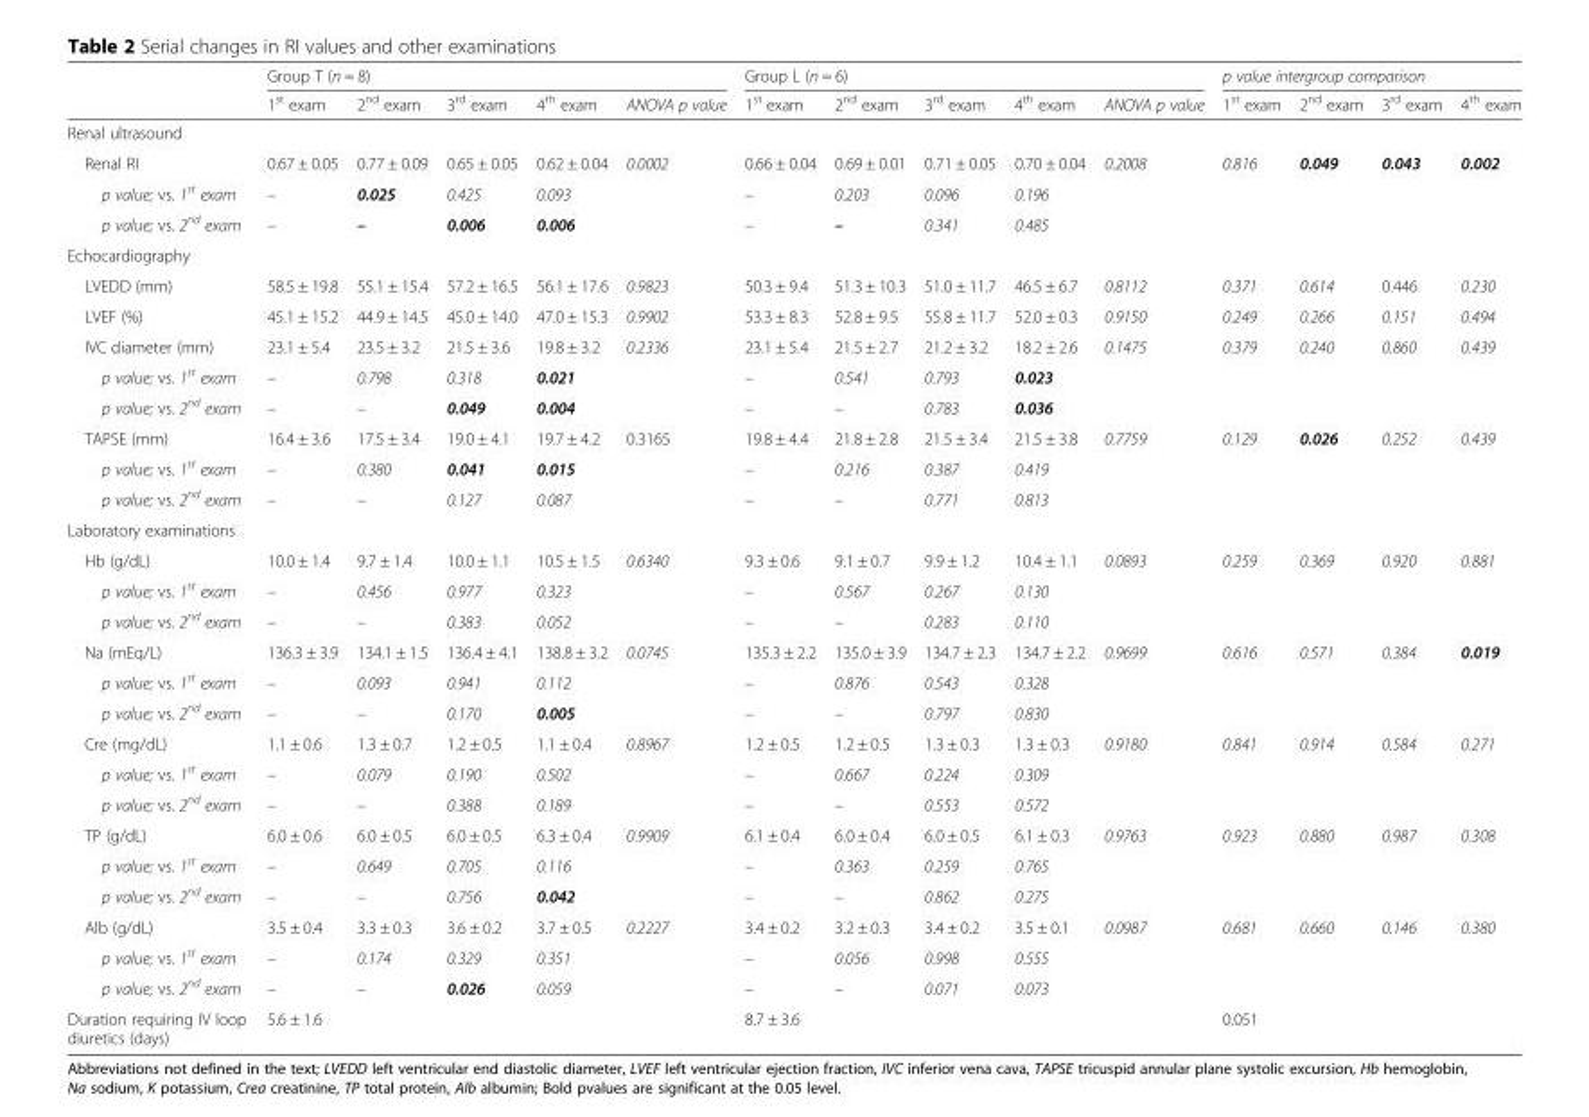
<table><thead><tr><td rowspan="2"></td><td colspan="5">Group T (n = 8)</td><td colspan="5">Group L (n = 6)</td><td colspan="4">p value intergroup comparison</td></tr><tr><td>1<sup>st</sup> exam</td><td>2<sup>nd</sup> exam</td><td>3<sup>rd</sup> exam</td><td>4<sup>th</sup> exam</td><td>ANOVA p value</td><td>1<sup>st</sup> exam</td><td>2<sup>nd</sup> exam</td><td>3<sup>rd</sup> exam</td><td>4<sup>th</sup> exam</td><td>ANOVA p value</td><td>1<sup>st</sup> exam</td><td>2<sup>nd</sup> exam</td><td>3<sup>rd</sup> exam</td><td>4<sup>th</sup> exam</td></tr></thead><tbody><tr><td colspan="15">Renal ultrasound</td></tr><tr><td>Renal RI</td><td>0.67 ± 0.05</td><td>0.77 ± 0.09</td><td>0.65 ± 0.05</td><td>0.62 ± 0.04</td><td>0.0002</td><td>0.66 ± 0.04</td><td>0.69 ± 0.01</td><td>0.71 ± 0.05</td><td>0.70 ± 0.04</td><td>0.2008</td><td>0.816</td><td>0.049</td><td>0.043</td><td>0.002</td></tr><tr><td>p value; vs. 1<sup>st</sup> exam</td><td>–</td><td>0.025</td><td>0.425</td><td>0.093</td><td></td><td>–</td><td>0.203</td><td>0.096</td><td>0.196</td><td></td><td></td><td></td><td></td><td></td></tr><tr><td>p value; vs. 2<sup>nd</sup> exam</td><td>–</td><td>–</td><td>0.006</td><td>0.006</td><td></td><td>–</td><td>–</td><td>0.341</td><td>0.485</td><td></td><td></td><td></td><td></td><td></td></tr><tr><td colspan="15">Echocardiography</td></tr><tr><td>LVEDD (mm)</td><td>58.5 ± 19.8</td><td>55.1 ± 15.4</td><td>57.2 ± 16.5</td><td>56.1 ± 17.6</td><td>0.9823</td><td>50.3 ± 9.4</td><td>51.3 ± 10.3</td><td>51.0 ± 11.7</td><td>46.5 ± 6.7</td><td>0.8112</td><td>0.371</td><td>0.614</td><td>0.446</td><td>0.230</td></tr><tr><td>LVEF (%)</td><td>45.1 ± 15.2</td><td>44.9 ± 14.5</td><td>45.0 ± 14.0</td><td>47.0 ± 15.3</td><td>0.9902</td><td>53.3 ± 8.3</td><td>52.8 ± 9.5</td><td>55.8 ± 11.7</td><td>52.0 ± 0.3</td><td>0.9150</td><td>0.249</td><td>0.266</td><td>0.151</td><td>0.494</td></tr><tr><td>IVC diameter (mm)</td><td>23.1 ± 5.4</td><td>23.5 ± 3.2</td><td>21.5 ± 3.6</td><td>19.8 ± 3.2</td><td>0.2336</td><td>23.1 ± 5.4</td><td>21.5 ± 2.7</td><td>21.2 ± 3.2</td><td>18.2 ± 2.6</td><td>0.1475</td><td>0.379</td><td>0.240</td><td>0.860</td><td>0.439</td></tr><tr><td>p value; vs. 1<sup>st</sup> exam</td><td>–</td><td>0.798</td><td>0.318</td><td>0.021</td><td></td><td>–</td><td>0.541</td><td>0.793</td><td>0.023</td><td></td><td></td><td></td><td></td><td></td></tr><tr><td>p value; vs. 2<sup>nd</sup> exam</td><td>–</td><td>–</td><td>0.049</td><td>0.004</td><td></td><td>–</td><td>–</td><td>0.783</td><td>0.036</td><td></td><td></td><td></td><td></td><td></td></tr><tr><td>TAPSE (mm)</td><td>16.4 ± 3.6</td><td>17.5 ± 3.4</td><td>19.0 ± 4.1</td><td>19.7 ± 4.2</td><td>0.3165</td><td>19.8 ± 4.4</td><td>21.8 ± 2.8</td><td>21.5 ± 3.4</td><td>21.5 ± 3.8</td><td>0.7759</td><td>0.129</td><td>0.026</td><td>0.252</td><td>0.439</td></tr><tr><td>p value; vs. 1<sup>st</sup> exam</td><td>–</td><td>0.380</td><td>0.041</td><td>0.015</td><td></td><td>–</td><td>0.216</td><td>0.387</td><td>0.419</td><td></td><td></td><td></td><td></td><td></td></tr><tr><td>p value; vs. 2<sup>nd</sup> exam</td><td>–</td><td>–</td><td>0.127</td><td>0.087</td><td></td><td>–</td><td>–</td><td>0.771</td><td>0.813</td><td></td><td></td><td></td><td></td><td></td></tr><tr><td colspan="15">Laboratory examinations</td></tr><tr><td>Hb (g/dL)</td><td>10.0 ± 1.4</td><td>9.7 ± 1.4</td><td>10.0 ± 1.1</td><td>10.5 ± 1.5</td><td>0.6340</td><td>9.3 ± 0.6</td><td>9.1 ± 0.7</td><td>9.9 ± 1.2</td><td>10.4 ± 1.1</td><td>0.0893</td><td>0.259</td><td>0.369</td><td>0.920</td><td>0.881</td></tr><tr><td>p value; vs. 1<sup>st</sup> exam</td><td>–</td><td>0.456</td><td>0.977</td><td>0.323</td><td></td><td>–</td><td>0.567</td><td>0.267</td><td>0.130</td><td></td><td></td><td></td><td></td><td></td></tr><tr><td>p value; vs. 2<sup>nd</sup> exam</td><td>–</td><td>–</td><td>0.383</td><td>0.052</td><td></td><td>–</td><td>–</td><td>0.283</td><td>0.110</td><td></td><td></td><td></td><td></td><td></td></tr><tr><td>Na (mEq/L)</td><td>136.3 ± 3.9</td><td>134.1 ± 1.5</td><td>136.4 ± 4.1</td><td>138.8 ± 3.2</td><td>0.0745</td><td>135.3 ± 2.2</td><td>135.0 ± 3.9</td><td>134.7 ± 2.3</td><td>134.7 ± 2.2</td><td>0.9699</td><td>0.616</td><td>0.571</td><td>0.384</td><td>0.019</td></tr><tr><td>p value; vs. 1<sup>st</sup> exam</td><td>–</td><td>0.093</td><td>0.941</td><td>0.112</td><td></td><td>–</td><td>0.876</td><td>0.543</td><td>0.328</td><td></td><td></td><td></td><td></td><td></td></tr><tr><td>p value; vs. 2<sup>nd</sup> exam</td><td>–</td><td>–</td><td>0.170</td><td>0.005</td><td></td><td>–</td><td>–</td><td>0.797</td><td>0.830</td><td></td><td></td><td></td><td></td><td></td></tr><tr><td>Cre (mg/dL)</td><td>1.1 ± 0.6</td><td>1.3 ± 0.7</td><td>1.2 ± 0.5</td><td>1.1 ± 0.4</td><td>0.8967</td><td>1.2 ± 0.5</td><td>1.2 ± 0.5</td><td>1.3 ± 0.3</td><td>1.3 ± 0.3</td><td>0.9180</td><td>0.841</td><td>0.914</td><td>0.584</td><td>0.271</td></tr><tr><td>p value; vs. 1<sup>st</sup> exam</td><td>–</td><td>0.079</td><td>0.190</td><td>0.502</td><td></td><td>–</td><td>0.667</td><td>0.224</td><td>0.309</td><td></td><td></td><td></td><td></td><td></td></tr><tr><td>p value; vs. 2<sup>nd</sup> exam</td><td>–</td><td>–</td><td>0.388</td><td>0.189</td><td></td><td>–</td><td>–</td><td>0.553</td><td>0.572</td><td></td><td></td><td></td><td></td><td></td></tr><tr><td>TP (g/dL)</td><td>6.0 ± 0.6</td><td>6.0 ± 0.5</td><td>6.0 ± 0.5</td><td>6.3 ± 0.4</td><td>0.9909</td><td>6.1 ± 0.4</td><td>6.0 ± 0.4</td><td>6.0 ± 0.5</td><td>6.1 ± 0.3</td><td>0.9763</td><td>0.923</td><td>0.880</td><td>0.987</td><td>0.308</td></tr><tr><td>p value; vs. 1<sup>st</sup> exam</td><td>–</td><td>0.649</td><td>0.705</td><td>0.116</td><td></td><td>–</td><td>0.363</td><td>0.259</td><td>0.765</td><td></td><td></td><td></td><td></td><td></td></tr><tr><td>p value; vs. 2<sup>nd</sup> exam</td><td>–</td><td>–</td><td>0.756</td><td>0.042</td><td></td><td>–</td><td>–</td><td>0.862</td><td>0.275</td><td></td><td></td><td></td><td></td><td></td></tr><tr><td>Alb (g/dL)</td><td>3.5 ± 0.4</td><td>3.3 ± 0.3</td><td>3.6 ± 0.2</td><td>3.7 ± 0.5</td><td>0.2227</td><td>3.4 ± 0.2</td><td>3.2 ± 0.3</td><td>3.4 ± 0.2</td><td>3.5 ± 0.1</td><td>0.0987</td><td>0.681</td><td>0.660</td><td>0.146</td><td>0.380</td></tr><tr><td>p value; vs. 1<sup>st</sup> exam</td><td>–</td><td>0.174</td><td>0.329</td><td>0.351</td><td></td><td>–</td><td>0.056</td><td>0.998</td><td>0.555</td><td></td><td></td><td></td><td></td><td></td></tr><tr><td>p value; vs. 2<sup>nd</sup> exam</td><td>–</td><td>–</td><td>0.026</td><td>0.059</td><td></td><td>–</td><td>–</td><td>0.071</td><td>0.073</td><td></td><td></td><td></td><td></td><td></td></tr><tr><td>Duration requiring IV loop diuretics (days)</td><td colspan="5">5.6 ± 1.6</td><td colspan="5">8.7 ± 3.6</td><td colspan="4">0.051</td></tr></tbody></table>